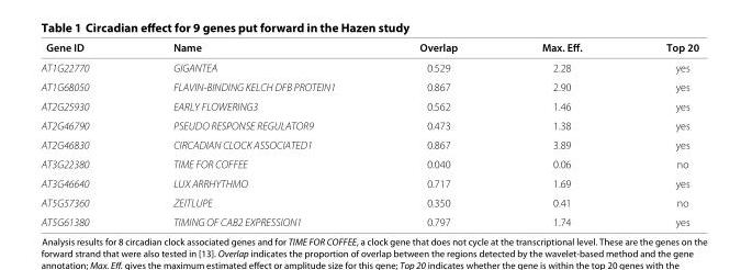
<table><thead><tr><td>Gene ID</td><td>Name</td><td>Overlap</td><td>Max. Eff.</td><td>Top 20</td></tr></thead><tbody><tr><td>AT1G22770</td><td>GIGANTEA</td><td>0.529</td><td>2.28</td><td>yes</td></tr><tr><td>AT1G68050</td><td>FLAVIN-BINDING KELCH DFB PROTEIN1</td><td>0.867</td><td>2.90</td><td>yes</td></tr><tr><td>AT2G25930</td><td>EARLY FLOWERING3</td><td>0.562</td><td>1.46</td><td>yes</td></tr><tr><td>AT2G46790</td><td>PSEUDO RESPONSE REGULATOR9</td><td>0.473</td><td>1.38</td><td>yes</td></tr><tr><td>AT2G46830</td><td>CIRCADIAN CLOCK ASSOCIATED1</td><td>0.867</td><td>3.89</td><td>yes</td></tr><tr><td>AT3G22380</td><td>TIME FOR COFFEE</td><td>0.040</td><td>0.06</td><td>no</td></tr><tr><td>AT3G46640</td><td>LUX ARRHYTHMO</td><td>0.717</td><td>1.69</td><td>yes</td></tr><tr><td>AT5G57360</td><td>ZEITLUPE</td><td>0.350</td><td>0.41</td><td>no</td></tr><tr><td>AT5G61380</td><td>TIMING OF CAB2 EXPRESSION1</td><td>0.797</td><td>1.74</td><td>yes</td></tr></tbody></table>